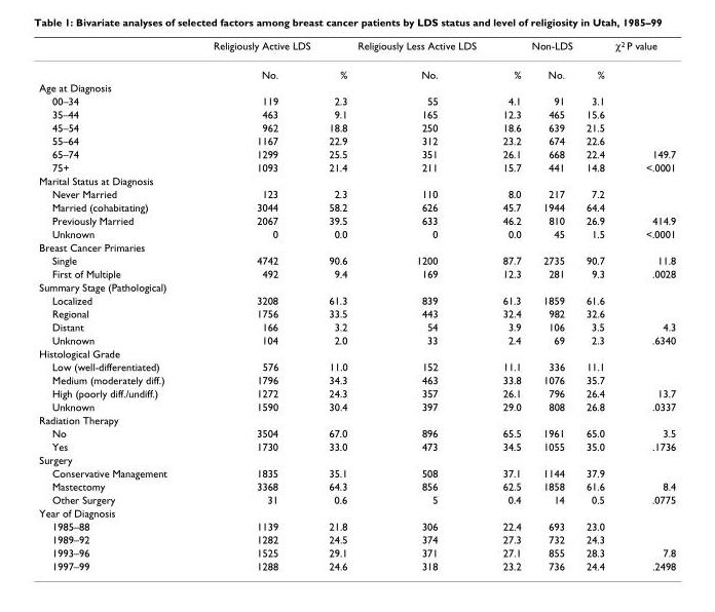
<table><thead><tr><td rowspan="2"></td><td colspan="2">Religiously Active LDS</td><td colspan="2">Religiously Less Active LDS</td><td colspan="2">Non-LDS</td><td rowspan="2">χ2 P value</td></tr><tr><td>No.</td><td>%</td><td>No.</td><td>%</td><td>No.</td><td>%</td></tr></thead><tbody><tr><td colspan="8">Age at Diagnosis</td></tr><tr><td>00–34</td><td>119</td><td>2.3</td><td>55</td><td>4.1</td><td>91</td><td>3.1</td><td></td></tr><tr><td>35–44</td><td>463</td><td>9.1</td><td>165</td><td>12.3</td><td>465</td><td>15.6</td><td></td></tr><tr><td>45–54</td><td>962</td><td>18.8</td><td>250</td><td>18.6</td><td>639</td><td>21.5</td><td></td></tr><tr><td>55–64</td><td>1167</td><td>22.9</td><td>312</td><td>23.2</td><td>674</td><td>22.6</td><td></td></tr><tr><td>65–74</td><td>1299</td><td>25.5</td><td>351</td><td>26.1</td><td>668</td><td>22.4</td><td>149.7</td></tr><tr><td>75+</td><td>1093</td><td>21.4</td><td>211</td><td>15.7</td><td>441</td><td>14.8</td><td>&lt;.0001</td></tr><tr><td colspan="8">Marital Status at Diagnosis</td></tr><tr><td>Never Married</td><td>123</td><td>2.3</td><td>110</td><td>8.0</td><td>217</td><td>7.2</td><td></td></tr><tr><td>Married (cohabitating)</td><td>3044</td><td>58.2</td><td>626</td><td>45.7</td><td>1944</td><td>64.4</td><td></td></tr><tr><td>Previously Married</td><td>2067</td><td>39.5</td><td>633</td><td>46.2</td><td>810</td><td>26.9</td><td>414.9</td></tr><tr><td>Unknown</td><td>0</td><td>0.0</td><td>0</td><td>0.0</td><td>45</td><td>1.5</td><td>&lt;.0001</td></tr><tr><td colspan="8">Breast Cancer Primaries</td></tr><tr><td>Single</td><td>4742</td><td>90.6</td><td>1200</td><td>87.7</td><td>2735</td><td>90.7</td><td>11.8</td></tr><tr><td>First of Multiple</td><td>492</td><td>9.4</td><td>169</td><td>12.3</td><td>281</td><td>9.3</td><td>.0028</td></tr><tr><td colspan="8">Summary Stage (Pathological)</td></tr><tr><td>Localized</td><td>3208</td><td>61.3</td><td>839</td><td>61.3</td><td>1859</td><td>61.6</td><td></td></tr><tr><td>Regional</td><td>1756</td><td>33.5</td><td>443</td><td>32.4</td><td>982</td><td>32.6</td><td></td></tr><tr><td>Distant</td><td>166</td><td>3.2</td><td>54</td><td>3.9</td><td>106</td><td>3.5</td><td>4.3</td></tr><tr><td>Unknown</td><td>104</td><td>2.0</td><td>33</td><td>2.4</td><td>69</td><td>2.3</td><td>.6340</td></tr><tr><td colspan="8">Histological Grade</td></tr><tr><td>Low (well-differentiated)</td><td>576</td><td>11.0</td><td>152</td><td>11.1</td><td>336</td><td>11.1</td><td></td></tr><tr><td>Medium (moderately diff.)</td><td>1796</td><td>34.3</td><td>463</td><td>33.8</td><td>1076</td><td>35.7</td><td></td></tr><tr><td>High (poorly diff./undiff.)</td><td>1272</td><td>24.3</td><td>357</td><td>26.1</td><td>796</td><td>26.4</td><td>13.7</td></tr><tr><td>Unknown</td><td>1590</td><td>30.4</td><td>397</td><td>29.0</td><td>808</td><td>26.8</td><td>.0337</td></tr><tr><td colspan="8">Radiation Therapy</td></tr><tr><td>No</td><td>3504</td><td>67.0</td><td>896</td><td>65.5</td><td>1961</td><td>65.0</td><td>3.5</td></tr><tr><td>Yes</td><td>1730</td><td>33.0</td><td>473</td><td>34.5</td><td>1055</td><td>35.0</td><td>.1736</td></tr><tr><td colspan="8">Surgery</td></tr><tr><td>Conservative Management</td><td>1835</td><td>35.1</td><td>508</td><td>37.1</td><td>1144</td><td>37.9</td><td></td></tr><tr><td>Mastectomy</td><td>3368</td><td>64.3</td><td>856</td><td>62.5</td><td>1858</td><td>61.6</td><td>8.4</td></tr><tr><td>Other Surgery</td><td>31</td><td>0.6</td><td>5</td><td>0.4</td><td>14</td><td>0.5</td><td>.0775</td></tr><tr><td colspan="8">Year of Diagnosis</td></tr><tr><td>1985–88</td><td>1139</td><td>21.8</td><td>306</td><td>22.4</td><td>693</td><td>23.0</td><td></td></tr><tr><td>1989–92</td><td>1282</td><td>24.5</td><td>374</td><td>27.3</td><td>732</td><td>24.3</td><td></td></tr><tr><td>1993–96</td><td>1525</td><td>29.1</td><td>371</td><td>27.1</td><td>855</td><td>28.3</td><td>7.8</td></tr><tr><td>1997–99</td><td>1288</td><td>24.6</td><td>318</td><td>23.2</td><td>736</td><td>24.4</td><td>.2498</td></tr></tbody></table>